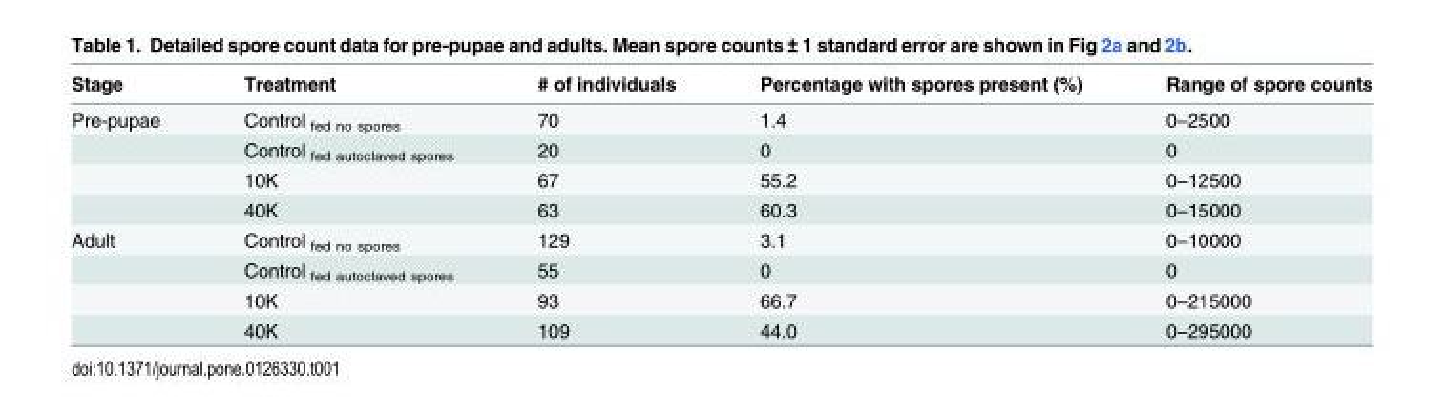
<table><thead><tr><td>Stage</td><td>Treatment</td><td># of individuals</td><td>Percentage with spores present (%)</td><td>Range of spore counts</td></tr></thead><tbody><tr><td rowspan="4">Pre-pupae</td><td>Control <sub>fed no spores</sub></td><td>70</td><td>1.4</td><td>0–2500</td></tr><tr><td>Control <sub>fed autoclaved spores</sub></td><td>20</td><td>0</td><td>0</td></tr><tr><td>10K</td><td>67</td><td>55.2</td><td>0–12500</td></tr><tr><td>40K</td><td>63</td><td>60.3</td><td>0–15000</td></tr><tr><td rowspan="4">Adult</td><td>Control <sub>fed no spores</sub></td><td>129</td><td>3.1</td><td>0–10000</td></tr><tr><td>Control <sub>fed autoclaved spores</sub></td><td>55</td><td>0</td><td>0</td></tr><tr><td>10K</td><td>93</td><td>66.7</td><td>0–215000</td></tr><tr><td>40K</td><td>109</td><td>44.0</td><td>0–295000</td></tr></tbody></table>